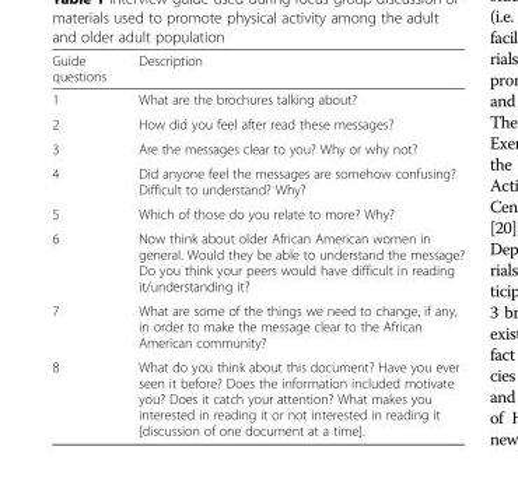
<table><thead><tr><td>Guide questions</td><td>Description</td></tr></thead><tbody><tr><td>1</td><td>What are the brochures talking about?</td></tr><tr><td>2</td><td>How did you feel after read these messages?</td></tr><tr><td>3</td><td>Are the messages clear to you? Why or why not?</td></tr><tr><td>4</td><td>Did anyone feel the messages are somehow confusing? Difficult to understand? Why?</td></tr><tr><td>5</td><td>Which of those do you relate to more? Why?</td></tr><tr><td>6</td><td>Now think about older African American women in general. Would they be able to understand the message? Do you think your peers would have difficult in reading it/understanding it?</td></tr><tr><td>7</td><td>What are some of the things we need to change, if any, in order to make the message clear to the African American community?</td></tr><tr><td>8</td><td>What do you think about this document? Have you ever seen it before? Does the information included motivate you? Does it catch your attention? What makes you interested in reading it or not interested in reading it [discussion of one document at a time].</td></tr></tbody></table>